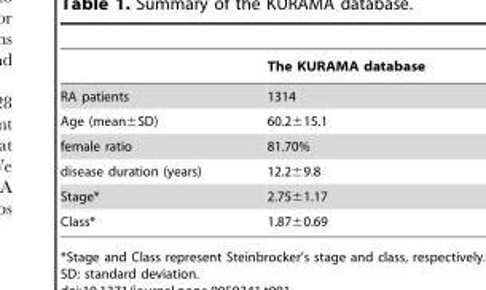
<table><thead><tr><td></td><td>The KURAMA database</td></tr></thead><tbody><tr><td>RA patients</td><td>1314</td></tr><tr><td>Age (mean±SD)</td><td>60.2±15.1</td></tr><tr><td>female ratio</td><td>81.70%</td></tr><tr><td>disease duration (years)</td><td>12.2±9.8</td></tr><tr><td>Stage*</td><td>2.75±1.17</td></tr><tr><td>Class*</td><td>1.87±0.69</td></tr></tbody></table>